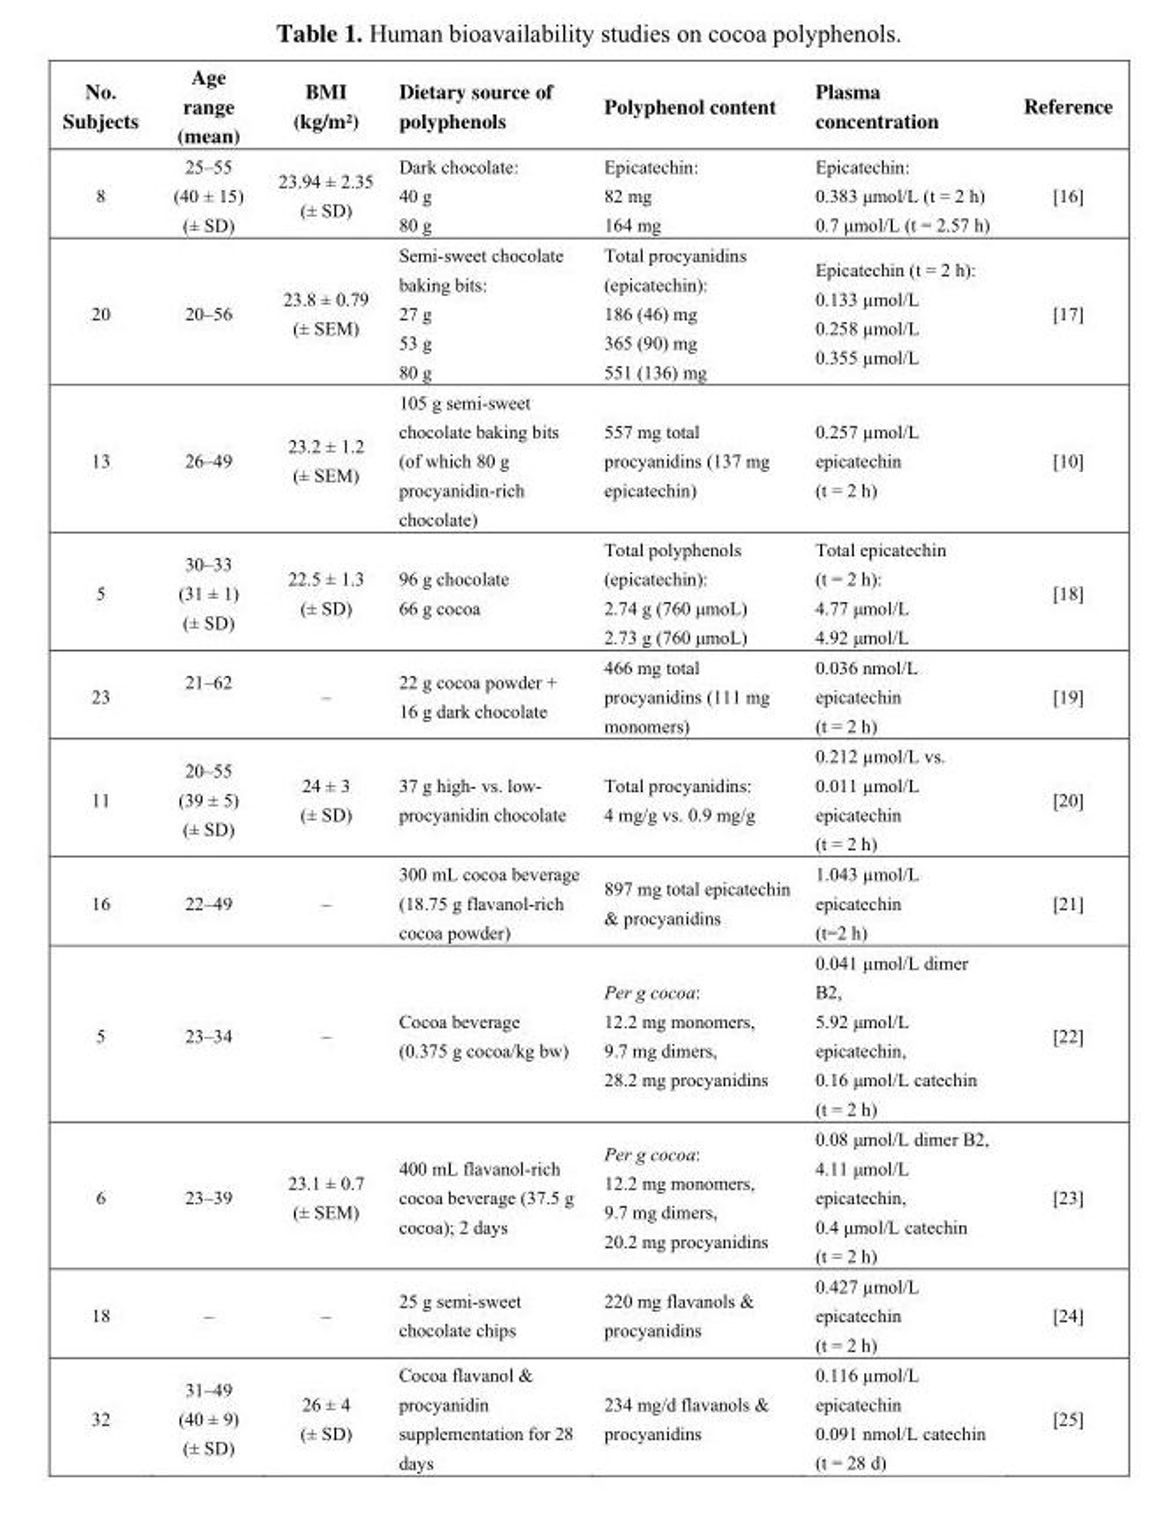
<table><thead><tr><td>No. Subjects</td><td>Age range (mean)</td><td>BMI (kg/m²)</td><td>Dietary source of polyphenols</td><td>Polyphenol content</td><td>Plasma concentration</td><td>Reference</td></tr></thead><tbody><tr><td>8</td><td>25–55 (40 ± 15) (± SD)</td><td>23.94 ± 2.35 (± SD)</td><td>Dark chocolate: 40 g 80 g</td><td>Epicatechin: 82 mg 164 mg</td><td>Epicatechin: 0.383 μmol/L (t = 2 h) 0.7 μmol/L (t = 2.57 h)</td><td>[16]</td></tr><tr><td>20</td><td>20–56</td><td>23.8 ± 0.79 (± SEM)</td><td>Semi-sweet chocolate baking bits: 27 g 53 g 80 g</td><td>Total procyanidins (epicatechin): 186 (46) mg 365 (90) mg 551 (136) mg</td><td>Epicatechin (t = 2 h): 0.133 µmol/L 0.258 µmol/L 0.355 µmol/L</td><td>[17]</td></tr><tr><td>13</td><td>26–49</td><td>23.2 ± 1.2 (± SEM)</td><td>105 g semi-sweet chocolate baking bits (of which 80 g procyanidin-rich chocolate)</td><td>557 mg total procyanidins (137 mg epicatechin)</td><td>0.257 µmol/L epicatechin (t = 2 h)</td><td>[10]</td></tr><tr><td>5</td><td>30–33 (31 ± 1) (± SD)</td><td>22.5 ± 1.3 (± SD)</td><td>96 g chocolate 66 g cocoa</td><td>Total polyphenols (epicatechin): 2.74 g (760 μmoL) 2.73 g (760 μmoL)</td><td>Total epicatechin (t = 2 h): 4.77 μmol/L 4.92 μmol/L</td><td>[18]</td></tr><tr><td>23</td><td>21–62</td><td>–</td><td>22 g cocoa powder + 16 g dark chocolate</td><td>466 mg total procyanidins (111 mg monomers)</td><td>0.036 nmol/L epicatechin (t = 2 h)</td><td>[19]</td></tr><tr><td>11</td><td>20–55 (39 ± 5) (± SD)</td><td>24 ± 3 (± SD)</td><td>37 g high- vs. low- procyanidin chocolate</td><td>Total procyanidins: 4 mg/g vs. 0.9 mg/g</td><td>0.212 µmol/L vs. 0.011 µmol/L epicatechin (t = 2 h)</td><td>[20]</td></tr><tr><td>16</td><td>22–49</td><td>–</td><td>300 mL cocoa beverage (18.75 g flavanol-rich cocoa powder)</td><td>897 mg total epicatechin &amp; procyanidins</td><td>1.043 µmol/L epicatechin (t=2 h)</td><td>[21]</td></tr><tr><td>5</td><td>23–34</td><td>–</td><td>Cocoa beverage (0.375 g cocoa/kg bw)</td><td>Per g cocoa: 12.2 mg monomers, 9.7 mg dimers, 28.2 mg procyanidins</td><td>0.041 µmol/L dimer B2, 5.92 μmol/L epicatechin, 0.16 μmol/L catechin (t = 2 h)</td><td>[22]</td></tr><tr><td>6</td><td>23–39</td><td>23.1 ± 0.7 (± SEM)</td><td>400 mL flavanol-rich cocoa beverage (37.5 g cocoa); 2 days</td><td>Per g cocoa: 12.2 mg monomers, 9.7 mg dimers, 20.2 mg procyanidins</td><td>0.08 μmol/L dimer B2, 4.11 μmol/L epicatechin, 0.4 μmol/L catechin (t = 2 h)</td><td>[23]</td></tr><tr><td>18</td><td>–</td><td>–</td><td>25 g semi-sweet chocolate chips</td><td>220 mg flavanols &amp; procyanidins</td><td>0.427 µmol/L epicatechin (t = 2 h)</td><td>[24]</td></tr><tr><td>32</td><td>31–49 (40 ± 9) (± SD)</td><td>26 ± 4 (± SD)</td><td>Cocoa flavanol &amp; procyanidin supplementation for 28 days</td><td>234 mg/d flavanols &amp; procyanidins</td><td>0.116 µmol/L epicatechin 0.091 nmol/L catechin (t = 28 d)</td><td>[25]</td></tr></tbody></table>